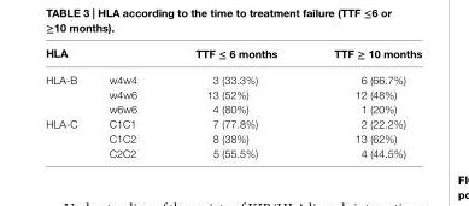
<table><thead><tr><td colspan="2">hla</td><td rowspan="2">TTF ≤ 6 months 3 (33.3%)</td><td rowspan="2">TTF ≥ 10 months 6 (66.7%)</td></tr><tr><td>HLA-B</td><td>w4w4</td></tr></thead><tbody><tr><td></td><td>w4w6</td><td>13 (52%)</td><td>12 (48%)</td></tr><tr><td></td><td>w6w6</td><td>4 (80%)</td><td>1 (20%)</td></tr><tr><td rowspan="3">HLA-C</td><td>C1C1</td><td>7 (77.8%)</td><td>2 (22.2%)</td></tr><tr><td>C1C2</td><td>8 (38%)</td><td>13 (62%)</td></tr><tr><td>C2C2</td><td>5 (55.5%)</td><td>4 (44.5%)</td></tr></tbody></table>